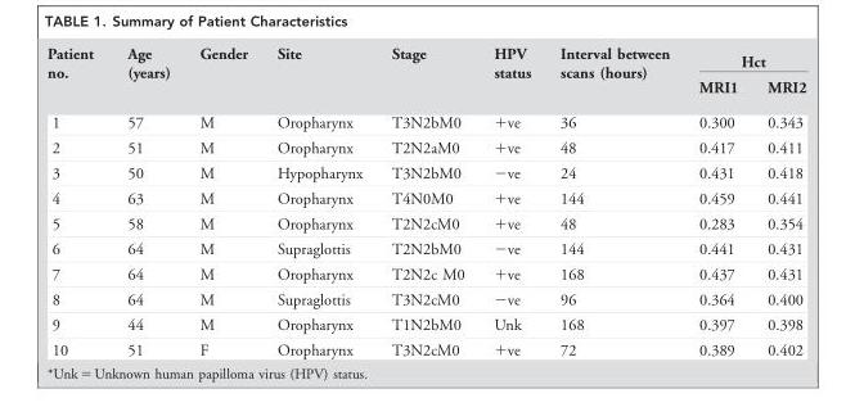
<table><thead><tr><td rowspan="2">Patient no.</td><td rowspan="2">Age (years)</td><td rowspan="2">Gender</td><td rowspan="2">Site</td><td rowspan="2">Stage</td><td rowspan="2">HPV status</td><td rowspan="2">Interval between scans (hours)</td><td colspan="2">Hct</td></tr><tr><td>MRI1</td><td>MRI2</td></tr></thead><tbody><tr><td>1</td><td>57</td><td>M</td><td>Oropharynx</td><td>T3N2bM0</td><td>+ve</td><td>36</td><td>0.300</td><td>0.343</td></tr><tr><td>2</td><td>51</td><td>M</td><td>Oropharynx</td><td>T2N2aM0</td><td>+ve</td><td>48</td><td>0.417</td><td>0.411</td></tr><tr><td>3</td><td>50</td><td>M</td><td>Hypopharynx</td><td>T3N2bM0</td><td>−ve</td><td>24</td><td>0.431</td><td>0.418</td></tr><tr><td>4</td><td>63</td><td>M</td><td>Oropharynx</td><td>T4N0M0</td><td>+ve</td><td>144</td><td>0.459</td><td>0.441</td></tr><tr><td>5</td><td>58</td><td>M</td><td>Oropharynx</td><td>T2N2cM0</td><td>+ve</td><td>48</td><td>0.283</td><td>0.354</td></tr><tr><td>6</td><td>64</td><td>M</td><td>Supraglottis</td><td>T2N2bM0</td><td>−ve</td><td>144</td><td>0.441</td><td>0.431</td></tr><tr><td>7</td><td>64</td><td>M</td><td>Oropharynx</td><td>T2N2c M0</td><td>+ve</td><td>168</td><td>0.437</td><td>0.431</td></tr><tr><td>8</td><td>64</td><td>M</td><td>Supraglottis</td><td>T3N2cM0</td><td>−ve</td><td>96</td><td>0.364</td><td>0.400</td></tr><tr><td>9</td><td>44</td><td>M</td><td>Oropharynx</td><td>T1N2bM0</td><td>Unk</td><td>168</td><td>0.397</td><td>0.398</td></tr><tr><td>10</td><td>51</td><td>F</td><td>Oropharynx</td><td>T3N2cM0</td><td>+ve</td><td>72</td><td>0.389</td><td>0.402</td></tr></tbody></table>